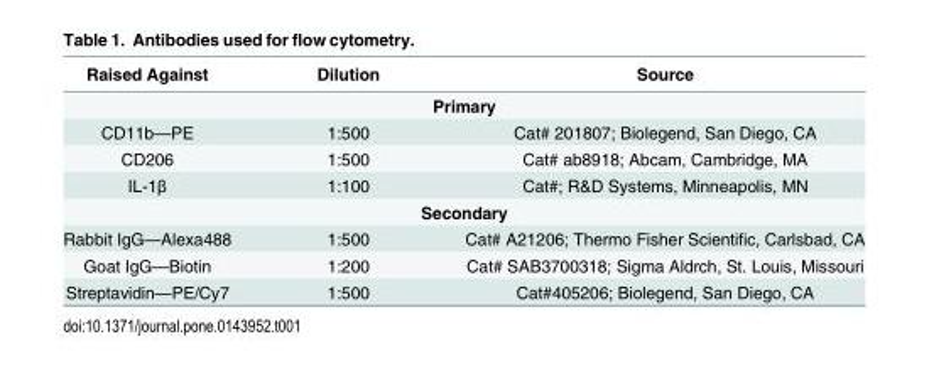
<table><thead><tr><td>Raised Against</td><td>Dilution</td><td>Source</td></tr></thead><tbody><tr><td colspan="3">Primary</td></tr><tr><td>CD11b—PE</td><td>1:500</td><td>Cat# 201807; Biolegend, San Diego, CA</td></tr><tr><td>CD206</td><td>1:500</td><td>Cat# ab8918; Abcam, Cambridge, MA</td></tr><tr><td>IL-1β</td><td>1:100</td><td>Cat#; R&amp;D Systems, Minneapolis, MN</td></tr><tr><td colspan="3">Secondary</td></tr><tr><td>Rabbit IgG—Alexa488</td><td>1:500</td><td>Cat# A21206; Thermo Fisher Scientific, Carlsbad, CA</td></tr><tr><td>Goat IgG—Biotin</td><td>1:200</td><td>Cat# SAB3700318; Sigma Aldrch, St. Louis, Missouri</td></tr><tr><td>Streptavidin—PE/Cy7</td><td>1:500</td><td>Cat#405206; Biolegend, San Diego, CA</td></tr></tbody></table>